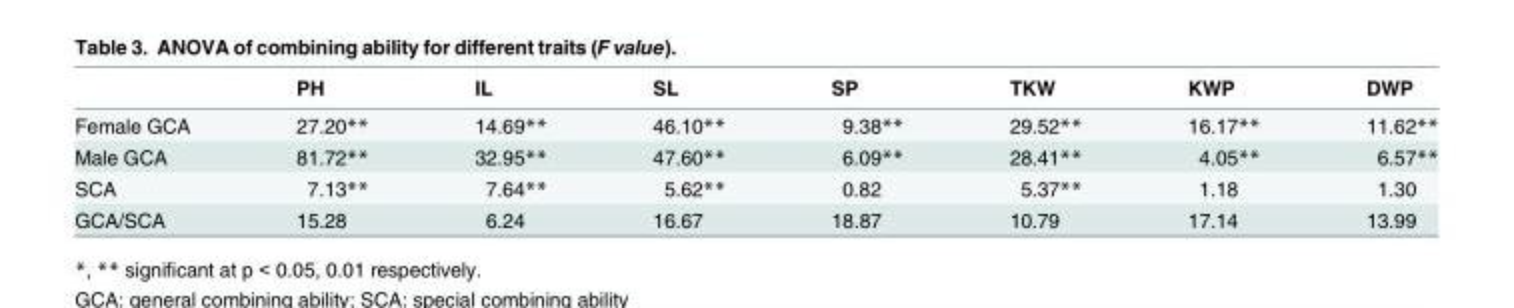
<table><thead><tr><td></td><td>PH</td><td>IL</td><td>SL</td><td>SP</td><td>TKW</td><td>KWP</td><td>DWP</td></tr></thead><tbody><tr><td>Female GCA</td><td>27.20**</td><td>14.69**</td><td>46.10**</td><td>9.38**</td><td>29.52**</td><td>16.17**</td><td>11.62**</td></tr><tr><td>Male GCA</td><td>81.72**</td><td>32.95**</td><td>47.60**</td><td>6.09**</td><td>28.41**</td><td>4.05**</td><td>6.57**</td></tr><tr><td>SCA</td><td>7.13**</td><td>7.64**</td><td>5.62**</td><td>0.82</td><td>5.37**</td><td>1.18</td><td>1.30</td></tr><tr><td>GCA/SCA</td><td>15.28</td><td>6.24</td><td>16.67</td><td>18.87</td><td>10.79</td><td>17.14</td><td>13.99</td></tr></tbody></table>